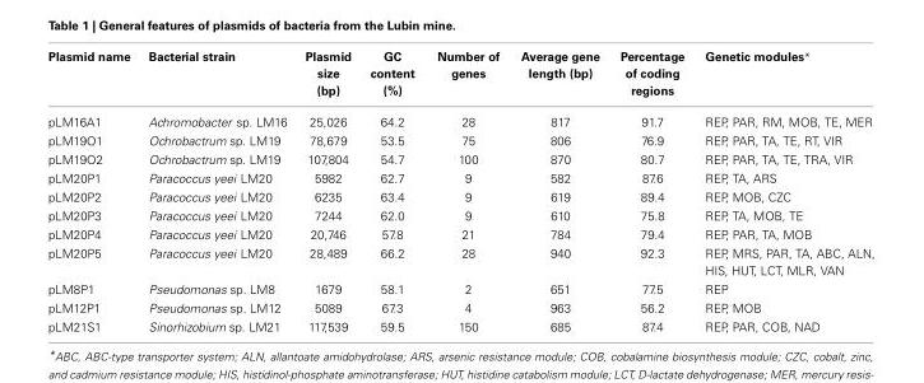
<table><thead><tr><td>Plasmid name</td><td>Bacterial strain</td><td>Plasmid size (bp)</td><td>GC content (%)</td><td>Number of genes</td><td>Average gene length (bp)</td><td>Percentage of coding regions</td><td>Genetic modules*</td></tr></thead><tbody><tr><td>pLM16A1</td><td>Achromobacter sp. LM16</td><td>25,026</td><td>64.2</td><td>28</td><td>817</td><td>91.7</td><td>REP, PAR, RM, MOB, TE, MER</td></tr><tr><td>pLM19O1</td><td>Ochrobactrum sp. LM19</td><td>78,679</td><td>53.5</td><td>75</td><td>806</td><td>76.9</td><td>REP, PAR, TA, TE, RT, VIR</td></tr><tr><td>pLM19O2</td><td>Ochrobactrum sp. LM19</td><td>107,804</td><td>54.7</td><td>100</td><td>870</td><td>80.7</td><td>REP, PAR, TA, TE, TRA, VIR</td></tr><tr><td>pLM20P1</td><td>Paracoccus yeei LM20</td><td>5982</td><td>62.7</td><td>9</td><td>582</td><td>87.6</td><td>REP, TA, ARS</td></tr><tr><td>pLM20P2</td><td>Paracoccus yeei LM20</td><td>6235</td><td>63.4</td><td>9</td><td>619</td><td>89.4</td><td>REP, MOB, CZC</td></tr><tr><td>pLM20P3</td><td>Paracoccus yeei LM20</td><td>7244</td><td>62.0</td><td>9</td><td>610</td><td>75.8</td><td>REP, TA, MOB, TE</td></tr><tr><td>pLM20P4</td><td>Paracoccus yeei LM20</td><td>20,746</td><td>57.8</td><td>21</td><td>784</td><td>79.4</td><td>REP, PAR, TA, MOB</td></tr><tr><td>pLM20P5</td><td>Paracoccus yeei LM20</td><td>28,489</td><td>66.2</td><td>28</td><td>940</td><td>92.3</td><td>REP, MRS, PAR, TA, ABC, ALN, HIS, HUT, LCT, MLR, VAN</td></tr><tr><td>pLM8P1</td><td>Pseudomonas sp. LM8</td><td>1679</td><td>58.1</td><td>2</td><td>651</td><td>77.5</td><td>REP</td></tr><tr><td>pLM12P1</td><td>Pseudomonas sp. LM12</td><td>5089</td><td>67.3</td><td>4</td><td>963</td><td>56.2</td><td>REP, MOB</td></tr><tr><td>pLM21S1</td><td>Sinorhizobium sp. LM21</td><td>117,539</td><td>59.5</td><td>150</td><td>685</td><td>87.4</td><td>REP, PAR, COB, NAD</td></tr></tbody></table>